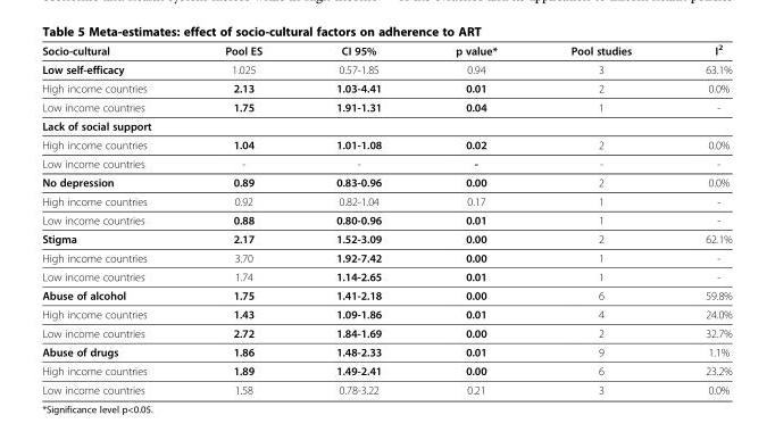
<table><thead><tr><td>Socio-cultural</td><td>Pool ES</td><td>CI 95%</td><td>p value*</td><td>Pool studies</td><td>I<sup>2</sup></td></tr></thead><tbody><tr><td>Low self-efficacy</td><td>1.025</td><td>0.57-1.85</td><td>0.94</td><td>3</td><td>63.1%</td></tr><tr><td>High income countries</td><td>2.13</td><td>1.03-4.41</td><td>0.01</td><td>2</td><td>0.0%</td></tr><tr><td>Low income countries</td><td>1.75</td><td>1.91-1.31</td><td>0.04</td><td>1</td><td>-</td></tr><tr><td colspan="6">Lack of social support</td></tr><tr><td>High income countries</td><td>1.04</td><td>1.01-1.08</td><td>0.02</td><td>2</td><td>0.0%</td></tr><tr><td>Low income countries</td><td>-</td><td>-</td><td>-</td><td>-</td><td>-</td></tr><tr><td>No depression</td><td>0.89</td><td>0.83-0.96</td><td>0.00</td><td>2</td><td>0.0%</td></tr><tr><td>High income countries</td><td>0.92</td><td>0.82-1.04</td><td>0.17</td><td>1</td><td>-</td></tr><tr><td>Low income countries</td><td>0.88</td><td>0.80-0.96</td><td>0.01</td><td>1</td><td>-</td></tr><tr><td>Stigma</td><td>2.17</td><td>1.52-3.09</td><td>0.00</td><td>2</td><td>62.1%</td></tr><tr><td>High income countries</td><td>3.70</td><td>1.92-7.42</td><td>0.00</td><td>1</td><td>-</td></tr><tr><td>Low income countries</td><td>1.74</td><td>1.14-2.65</td><td>0.01</td><td>1</td><td>-</td></tr><tr><td>Abuse of alcohol</td><td>1.75</td><td>1.41-2.18</td><td>0.00</td><td>6</td><td>59.8%</td></tr><tr><td>High income countries</td><td>1.43</td><td>1.09-1.86</td><td>0.01</td><td>4</td><td>24.0%</td></tr><tr><td>Low income countries</td><td>2.72</td><td>1.84-1.69</td><td>0.00</td><td>2</td><td>32.7%</td></tr><tr><td>Abuse of drugs</td><td>1.86</td><td>1.48-2.33</td><td>0.01</td><td>9</td><td>1.1%</td></tr><tr><td>High income countries</td><td>1.89</td><td>1.49-2.41</td><td>0.00</td><td>6</td><td>23.2%</td></tr><tr><td>Low income countries</td><td>1.58</td><td>0.78-3.22</td><td>0.21</td><td>3</td><td>0.0%</td></tr></tbody></table>